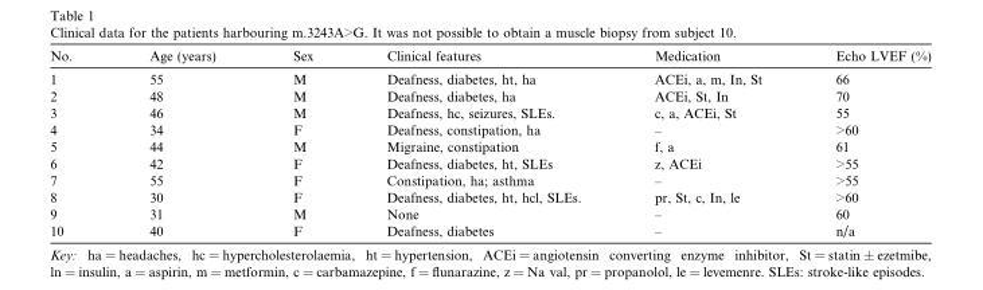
<table><thead><tr><td>No.</td><td>Age (years)</td><td>Sex</td><td>Clinical features</td><td>Medication</td><td>Echo LVEF (%)</td></tr></thead><tbody><tr><td>1</td><td>55</td><td>M</td><td>Deafness, diabetes, ht, ha</td><td>ACEi, a, m, In, St</td><td>66</td></tr><tr><td>2</td><td>48</td><td>M</td><td>Deafness, diabetes, ha</td><td>ACEi, St, In</td><td>70</td></tr><tr><td>3</td><td>46</td><td>M</td><td>Deafness, hc, seizures, SLEs.</td><td>c, a, ACEi, St</td><td>55</td></tr><tr><td>4</td><td>34</td><td>F</td><td>Deafness, constipation, ha</td><td>–</td><td>&gt;60</td></tr><tr><td>5</td><td>44</td><td>M</td><td>Migraine, constipation</td><td>f, a</td><td>61</td></tr><tr><td>6</td><td>42</td><td>F</td><td>Deafness, diabetes, ht, SLEs</td><td>z, ACEi</td><td>&gt;55</td></tr><tr><td>7</td><td>55</td><td>F</td><td>Constipation, ha; asthma</td><td>–</td><td>&gt;55</td></tr><tr><td>8</td><td>30</td><td>F</td><td>Deafness, diabetes, ht, hcl, SLEs.</td><td>pr, St, c, In, le</td><td>&gt;60</td></tr><tr><td>9</td><td>31</td><td>M</td><td>None</td><td>–</td><td>60</td></tr><tr><td>10</td><td>40</td><td>F</td><td>Deafness, diabetes</td><td>–</td><td>n/a</td></tr></tbody></table>